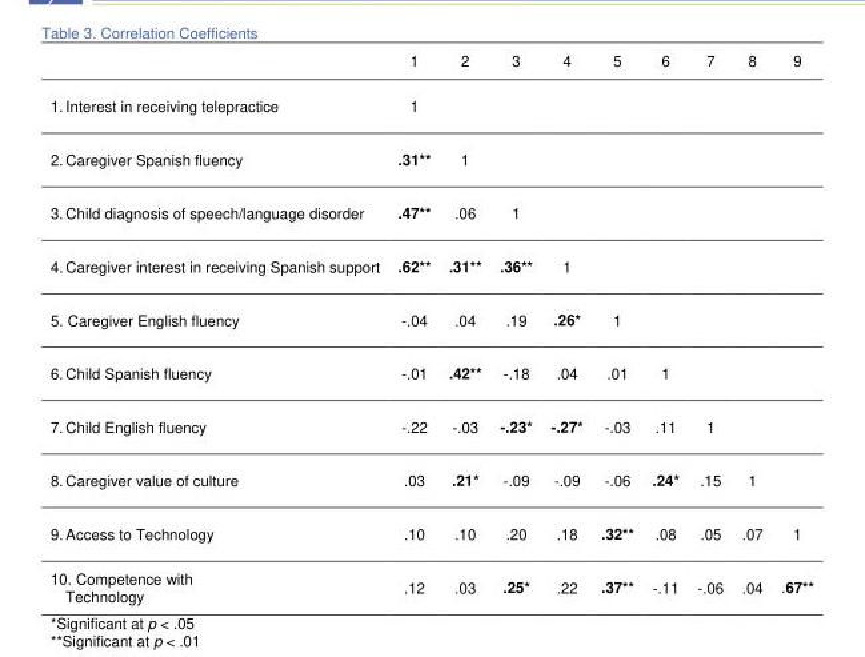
<table><thead><tr><td></td><td>1</td><td>2</td><td>3</td><td>4</td><td>5</td><td>6</td><td>7</td><td>8</td><td>9</td></tr></thead><tbody><tr><td>1. Interest in receiving telepractice</td><td>1</td><td></td><td></td><td></td><td></td><td></td><td></td><td></td><td></td></tr><tr><td>2. Caregiver Spanish fluency</td><td>.31**</td><td>1</td><td></td><td></td><td></td><td></td><td></td><td></td><td></td></tr><tr><td>3. Child diagnosis of speech/language disorder</td><td>.47**</td><td>.06</td><td>1</td><td></td><td></td><td></td><td></td><td></td><td></td></tr><tr><td>4. Caregiver interest in receiving Spanish support</td><td>.62**</td><td>.31**</td><td>.36**</td><td>1</td><td></td><td></td><td></td><td></td><td></td></tr><tr><td>5. Caregiver English fluency</td><td>-.04</td><td>.04</td><td>.19</td><td>.26*</td><td>1</td><td></td><td></td><td></td><td></td></tr><tr><td>6. Child Spanish fluency</td><td>-.01</td><td>.42**</td><td>-.18</td><td>.04</td><td>.01</td><td>1</td><td></td><td></td><td></td></tr><tr><td>7. Child English fluency</td><td>-.22</td><td>-.03</td><td>-.23*</td><td>-.27*</td><td>-.03</td><td>.11</td><td>1</td><td></td><td></td></tr><tr><td>8. Caregiver value of culture</td><td>.03</td><td>.21*</td><td>-.09</td><td>-.09</td><td>-.06</td><td>.24*</td><td>.15</td><td>1</td><td></td></tr><tr><td>9. Access to Technology</td><td>.10</td><td>.10</td><td>.20</td><td>.18</td><td>.32**</td><td>.08</td><td>.05</td><td>.07</td><td>1</td></tr><tr><td>10. Competence with Technology</td><td>.12</td><td>.03</td><td>.25*</td><td>.22</td><td>.37**</td><td>-.11</td><td>-.06</td><td>.04</td><td>.67**</td></tr></tbody></table>